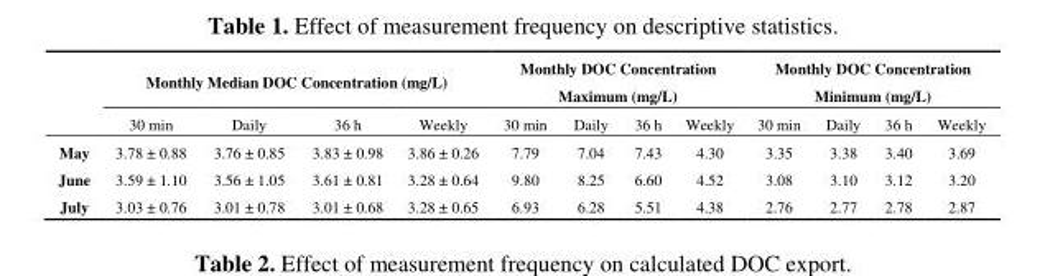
<table><thead><tr><td rowspan="2"></td><td colspan="4">Monthly Median DOC Concentration (mg/L)</td><td colspan="4">Monthly DOC Concentration Maximum (mg/L)</td><td colspan="4">Monthly DOC Concentration Minimum (mg/L)</td></tr><tr><td>30 min</td><td>Daily</td><td>36 h</td><td>Weekly</td><td>30 min</td><td>Daily</td><td>36 h</td><td>Weekly</td><td>30 min</td><td>Daily</td><td>36 h</td><td>Weekly</td></tr></thead><tbody><tr><td>May</td><td>3.78 ± 0.88</td><td>3.76 ± 0.85</td><td>3.83 ± 0.98</td><td>3.86 ± 0.26</td><td>7.79</td><td>7.04</td><td>7.43</td><td>4.30</td><td>3.35</td><td>3.38</td><td>3.40</td><td>3.69</td></tr><tr><td>June</td><td>3.59 ± 1.10</td><td>3.56 ± 1.05</td><td>3.61 ± 0.81</td><td>3.28 ± 0.64</td><td>9.80</td><td>8.25</td><td>6.60</td><td>4.52</td><td>3.08</td><td>3.10</td><td>3.12</td><td>3.20</td></tr><tr><td>July</td><td>3.03 ± 0.76</td><td>3.01 ± 0.78</td><td>3.01 ± 0.68</td><td>3.28 ± 0.65</td><td>6.93</td><td>6.28</td><td>5.51</td><td>4.38</td><td>2.76</td><td>2.77</td><td>2.78</td><td>2.87</td></tr></tbody></table>